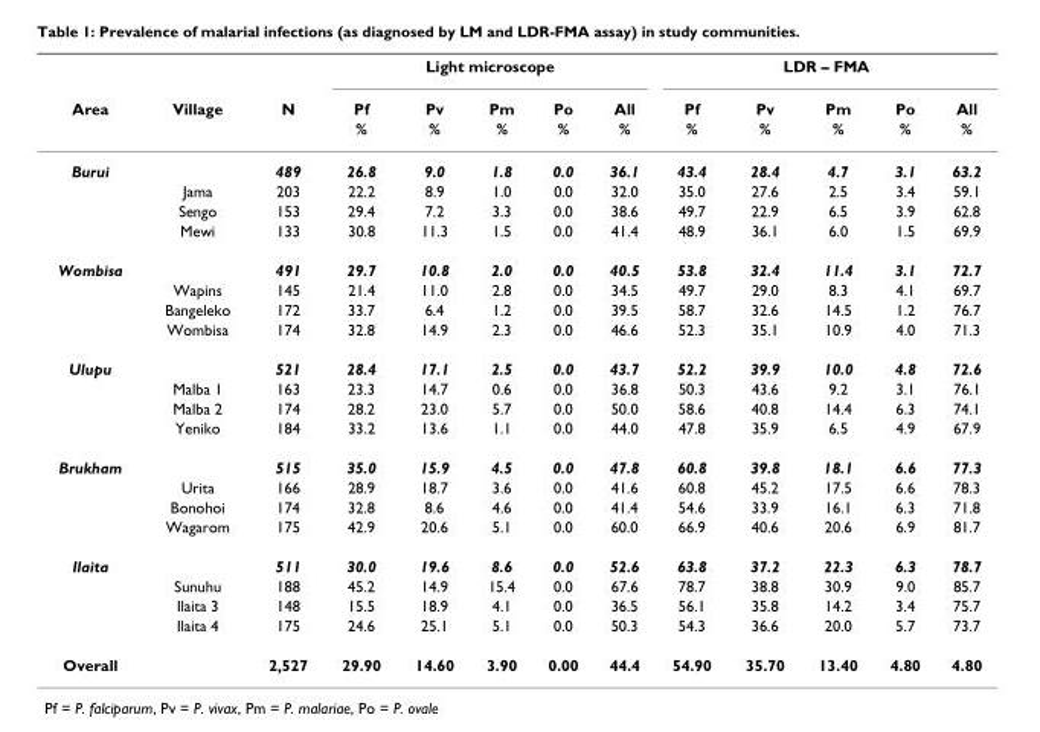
<table><thead><tr><td rowspan="3">Area</td><td rowspan="3">Village</td><td rowspan="3">N</td><td colspan="5">Light microscope</td><td colspan="5">LDR – FMA</td></tr><tr><td rowspan="2">Pf %</td><td rowspan="2">Pv %</td><td rowspan="2">Pm %</td><td rowspan="2">Po %</td><td rowspan="2">All %</td><td rowspan="2">Pf %</td><td rowspan="2">Pv %</td><td rowspan="2">Pm %</td><td rowspan="2">Po %</td><td rowspan="2">All %</td></tr><tr></tr></thead><tbody><tr><td rowspan="4">Burui</td><td></td><td>489</td><td>26.8</td><td>9.0</td><td>1.8</td><td>0.0</td><td>36.1</td><td>43.4</td><td>28.4</td><td>4.7</td><td>3.1</td><td>63.2</td></tr><tr><td>Jama</td><td>203</td><td>22.2</td><td>8.9</td><td>1.0</td><td>0.0</td><td>32.0</td><td>35.0</td><td>27.6</td><td>2.5</td><td>3.4</td><td>59.1</td></tr><tr><td>Sengo</td><td>153</td><td>29.4</td><td>7.2</td><td>3.3</td><td>0.0</td><td>38.6</td><td>49.7</td><td>22.9</td><td>6.5</td><td>3.9</td><td>62.8</td></tr><tr><td>Mewi</td><td>133</td><td>30.8</td><td>11.3</td><td>1.5</td><td>0.0</td><td>41.4</td><td>48.9</td><td>36.1</td><td>6.0</td><td>1.5</td><td>69.9</td></tr><tr><td rowspan="4">Wombisa</td><td></td><td>491</td><td>29.7</td><td>10.8</td><td>2.0</td><td>0.0</td><td>40.5</td><td>53.8</td><td>32.4</td><td>11.4</td><td>3.1</td><td>72.7</td></tr><tr><td>Wapins</td><td>145</td><td>21.4</td><td>11.0</td><td>2.8</td><td>0.0</td><td>34.5</td><td>49.7</td><td>29.0</td><td>8.3</td><td>4.1</td><td>69.7</td></tr><tr><td>Bangeleko</td><td>172</td><td>33.7</td><td>6.4</td><td>1.2</td><td>0.0</td><td>39.5</td><td>58.7</td><td>32.6</td><td>14.5</td><td>1.2</td><td>76.7</td></tr><tr><td>Wombisa</td><td>174</td><td>32.8</td><td>14.9</td><td>2.3</td><td>0.0</td><td>46.6</td><td>52.3</td><td>35.1</td><td>10.9</td><td>4.0</td><td>71.3</td></tr><tr><td rowspan="4">Ulupu</td><td></td><td>521</td><td>28.4</td><td>17.1</td><td>2.5</td><td>0.0</td><td>43.7</td><td>52.2</td><td>39.9</td><td>10.0</td><td>4.8</td><td>72.6</td></tr><tr><td>Malba 1</td><td>163</td><td>23.3</td><td>14.7</td><td>0.6</td><td>0.0</td><td>36.8</td><td>50.3</td><td>43.6</td><td>9.2</td><td>3.1</td><td>76.1</td></tr><tr><td>Malba 2</td><td>174</td><td>28.2</td><td>23.0</td><td>5.7</td><td>0.0</td><td>50.0</td><td>58.6</td><td>40.8</td><td>14.4</td><td>6.3</td><td>74.1</td></tr><tr><td>Yeniko</td><td>184</td><td>33.2</td><td>13.6</td><td>1.1</td><td>0.0</td><td>44.0</td><td>47.8</td><td>35.9</td><td>6.5</td><td>4.9</td><td>67.9</td></tr><tr><td rowspan="4">Brukham</td><td></td><td>515</td><td>35.0</td><td>15.9</td><td>4.5</td><td>0.0</td><td>47.8</td><td>60.8</td><td>39.8</td><td>18.1</td><td>6.6</td><td>77.3</td></tr><tr><td>Urita</td><td>166</td><td>28.9</td><td>18.7</td><td>3.6</td><td>0.0</td><td>41.6</td><td>60.8</td><td>45.2</td><td>17.5</td><td>6.6</td><td>78.3</td></tr><tr><td>Bonohoi</td><td>174</td><td>32.8</td><td>8.6</td><td>4.6</td><td>0.0</td><td>41.4</td><td>54.6</td><td>33.9</td><td>16.1</td><td>6.3</td><td>71.8</td></tr><tr><td>Wagarom</td><td>175</td><td>42.9</td><td>20.6</td><td>5.1</td><td>0.0</td><td>60.0</td><td>66.9</td><td>40.6</td><td>20.6</td><td>6.9</td><td>81.7</td></tr><tr><td rowspan="4">Ilaita</td><td></td><td>511</td><td>30.0</td><td>19.6</td><td>8.6</td><td>0.0</td><td>52.6</td><td>63.8</td><td>37.2</td><td>22.3</td><td>6.3</td><td>78.7</td></tr><tr><td>Sunuhu</td><td>188</td><td>45.2</td><td>14.9</td><td>15.4</td><td>0.0</td><td>67.6</td><td>78.7</td><td>38.8</td><td>30.9</td><td>9.0</td><td>85.7</td></tr><tr><td>Ilaita 3</td><td>148</td><td>15.5</td><td>18.9</td><td>4.1</td><td>0.0</td><td>36.5</td><td>56.1</td><td>35.8</td><td>14.2</td><td>3.4</td><td>75.7</td></tr><tr><td>Ilaita 4</td><td>175</td><td>24.6</td><td>25.1</td><td>5.1</td><td>0.0</td><td>50.3</td><td>54.3</td><td>36.6</td><td>20.0</td><td>5.7</td><td>73.7</td></tr><tr><td>Overall</td><td></td><td>2,527</td><td>29.90</td><td>14.60</td><td>3.90</td><td>0.00</td><td>44.4</td><td>54.90</td><td>35.70</td><td>13.40</td><td>4.80</td><td>4.80</td></tr></tbody></table>